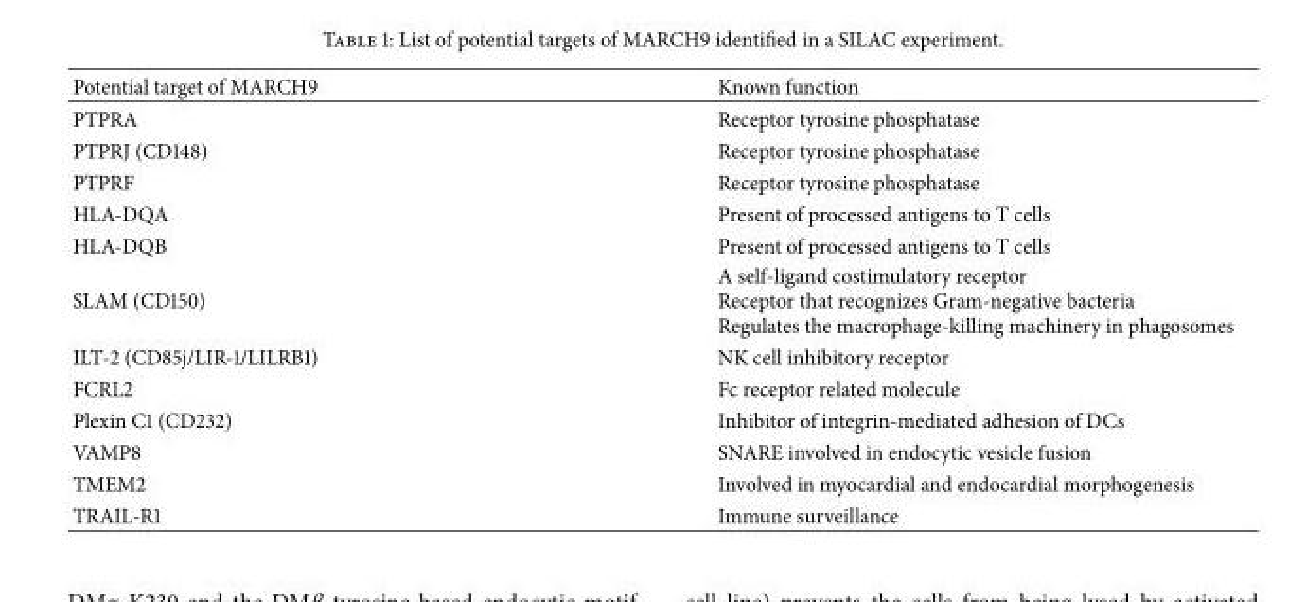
<table><thead><tr><td>Potential target of MARCH9</td><td>Known function</td></tr></thead><tbody><tr><td>PTPRA</td><td>Receptor tyrosine phosphatase</td></tr><tr><td>PTPRJ (CD148)</td><td>Receptor tyrosine phosphatase</td></tr><tr><td>PTPRF</td><td>Receptor tyrosine phosphatase</td></tr><tr><td>HLA-DQA</td><td>Present of processed antigens to T cells</td></tr><tr><td>HLA-DQB</td><td>Present of processed antigens to T cells</td></tr><tr><td>SLAM (CD150)</td><td>A self-ligand costimulatory receptor Receptor that recognizes Gram-negative bacteria Regulates the macrophage-killing machinery in phagosomes</td></tr><tr><td>ILT-2 (CD85j/LIR-1/LILRB1)</td><td>NK cell inhibitory receptor</td></tr><tr><td>FCRL2</td><td>Fc receptor related molecule</td></tr><tr><td>Plexin C1 (CD232)</td><td>Inhibitor of integrin-mediated adhesion of DCs</td></tr><tr><td>VAMP8</td><td>SNARE involved in endocytic vesicle fusion</td></tr><tr><td>TMEM2</td><td>Involved in myocardial and endocardial morphogenesis</td></tr><tr><td>TRAIL-R1</td><td>Immune surveillance</td></tr></tbody></table>